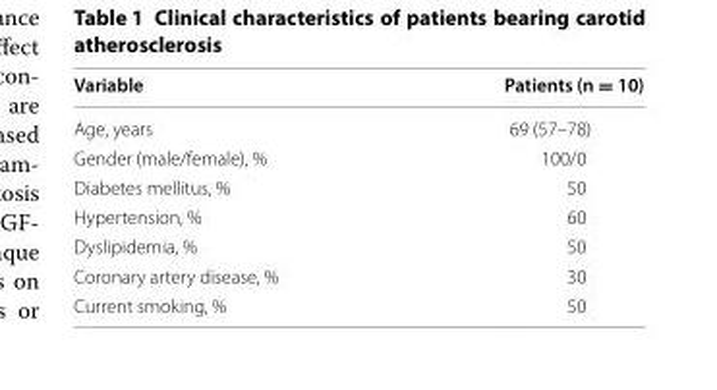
<table><thead><tr><td>Variable</td><td>Patients (n = 10)</td></tr></thead><tbody><tr><td>Age, years</td><td>69 (57–78)</td></tr><tr><td>Gender (male/female), %</td><td>100/0</td></tr><tr><td>Diabetes mellitus, %</td><td>50</td></tr><tr><td>Hypertension, %</td><td>60</td></tr><tr><td>Dyslipidemia, %</td><td>50</td></tr><tr><td>Coronary artery disease, %</td><td>30</td></tr><tr><td>Current smoking, %</td><td>50</td></tr></tbody></table>